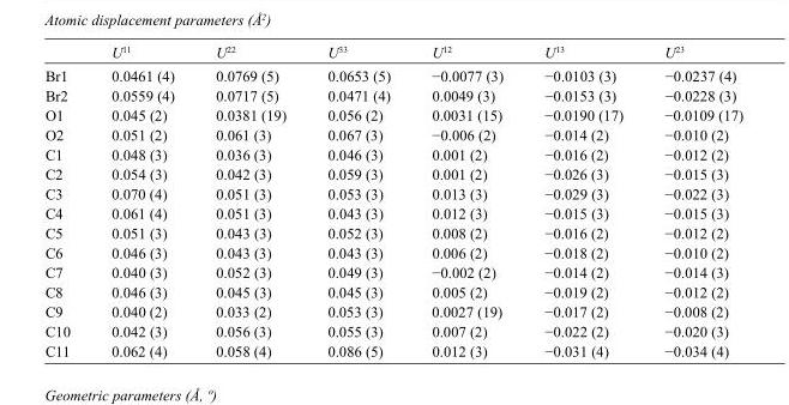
<table><thead><tr><td></td><td>U<sup>11</sup></td><td>U<sup>22</sup></td><td>U<sup>33</sup></td><td>U<sup>12</sup></td><td>U<sup>13</sup></td><td>U<sup>23</sup></td></tr></thead><tbody><tr><td>Br1</td><td>0.0461 (4)</td><td>0.0769 (5)</td><td>0.0653 (5)</td><td>−0.0077 (3)</td><td>−0.0103 (3)</td><td>−0.0237 (4)</td></tr><tr><td>Br2</td><td>0.0559 (4)</td><td>0.0717 (5)</td><td>0.0471 (4)</td><td>0.0049 (3)</td><td>−0.0153 (3)</td><td>−0.0228 (3)</td></tr><tr><td>O1</td><td>0.045 (2)</td><td>0.0381 (19)</td><td>0.056 (2)</td><td>0.0031 (15)</td><td>−0.0190 (17)</td><td>−0.0109 (17)</td></tr><tr><td>O2</td><td>0.051 (2)</td><td>0.061 (3)</td><td>0.067 (3)</td><td>−0.006 (2)</td><td>−0.014 (2)</td><td>−0.010 (2)</td></tr><tr><td>C1</td><td>0.048 (3)</td><td>0.036 (3)</td><td>0.046 (3)</td><td>0.001 (2)</td><td>−0.016 (2)</td><td>−0.012 (2)</td></tr><tr><td>C2</td><td>0.054 (3)</td><td>0.042 (3)</td><td>0.059 (3)</td><td>0.001 (2)</td><td>−0.026 (3)</td><td>−0.015 (3)</td></tr><tr><td>C3</td><td>0.070 (4)</td><td>0.051 (3)</td><td>0.053 (3)</td><td>0.013 (3)</td><td>−0.029 (3)</td><td>−0.022 (3)</td></tr><tr><td>C4</td><td>0.061 (4)</td><td>0.051 (3)</td><td>0.043 (3)</td><td>0.012 (3)</td><td>−0.015 (3)</td><td>−0.015 (3)</td></tr><tr><td>C5</td><td>0.051 (3)</td><td>0.043 (3)</td><td>0.052 (3)</td><td>0.008 (2)</td><td>−0.016 (2)</td><td>−0.012 (2)</td></tr><tr><td>C6</td><td>0.046 (3)</td><td>0.043 (3)</td><td>0.043 (3)</td><td>0.006 (2)</td><td>−0.018 (2)</td><td>−0.010 (2)</td></tr><tr><td>C7</td><td>0.040 (3)</td><td>0.052 (3)</td><td>0.049 (3)</td><td>−0.002 (2)</td><td>−0.014 (2)</td><td>−0.014 (3)</td></tr><tr><td>C8</td><td>0.046 (3)</td><td>0.045 (3)</td><td>0.045 (3)</td><td>0.005 (2)</td><td>−0.019 (2)</td><td>−0.012 (2)</td></tr><tr><td>C9</td><td>0.040 (2)</td><td>0.033 (2)</td><td>0.053 (3)</td><td>0.0027 (19)</td><td>−0.017 (2)</td><td>−0.008 (2)</td></tr><tr><td>C10</td><td>0.042 (3)</td><td>0.056 (3)</td><td>0.055 (3)</td><td>0.007 (2)</td><td>−0.022 (2)</td><td>−0.020 (3)</td></tr><tr><td>C11</td><td>0.062 (4)</td><td>0.058 (4)</td><td>0.086 (5)</td><td>0.012 (3)</td><td>−0.031 (4)</td><td>−0.034 (4)</td></tr></tbody></table>